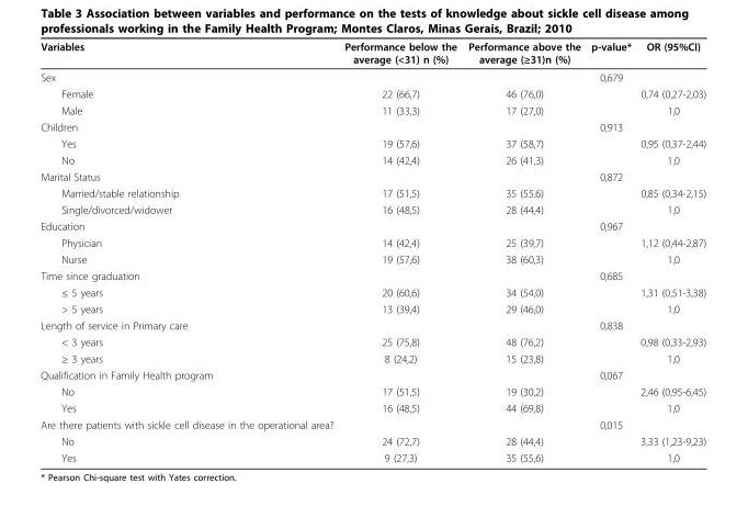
<table><thead><tr><td>Variables</td><td>Performance below the average (&lt;31) n (%)</td><td>Performance above the average (≥31)n (%)</td><td>p-value*</td><td>OR (95%CI)</td></tr></thead><tbody><tr><td>Sex</td><td></td><td></td><td>0,679</td><td></td></tr><tr><td>Female</td><td>22 (66,7)</td><td>46 (76,0)</td><td></td><td>0,74 (0,27-2,03)</td></tr><tr><td>Male</td><td>11 (33,3)</td><td>17 (27,0)</td><td></td><td>1,0</td></tr><tr><td>Children</td><td></td><td></td><td>0,913</td><td></td></tr><tr><td>Yes</td><td>19 (57,6)</td><td>37 (58,7)</td><td></td><td>0,95 (0,37-2,44)</td></tr><tr><td>No</td><td>14 (42,4)</td><td>26 (41,3)</td><td></td><td>1,0</td></tr><tr><td>Marital Status</td><td></td><td></td><td>0,872</td><td></td></tr><tr><td>Married/stable relationship</td><td>17 (51,5)</td><td>35 (55.6)</td><td></td><td>0,85 (0,34-2,15)</td></tr><tr><td>Single/divorced/widower</td><td>16 (48,5)</td><td>28 (44,4)</td><td></td><td>1,0</td></tr><tr><td>Education</td><td></td><td></td><td>0,967</td><td></td></tr><tr><td>Physician</td><td>14 (42,4)</td><td>25 (39,7)</td><td></td><td>1,12 (0,44-2,87)</td></tr><tr><td>Nurse</td><td>19 (57,6)</td><td>38 (60,3)</td><td></td><td>1,0</td></tr><tr><td>Time since graduation</td><td></td><td></td><td>0,685</td><td></td></tr><tr><td>≤ 5 years</td><td>20 (60,6)</td><td>34 (54,0)</td><td></td><td>1,31 (0,51-3,38)</td></tr><tr><td>&gt; 5 years</td><td>13 (39,4)</td><td>29 (46,0)</td><td></td><td>1,0</td></tr><tr><td>Length of service in Primary care</td><td></td><td></td><td>0,838</td><td></td></tr><tr><td>&lt; 3 years</td><td>25 (75,8)</td><td>48 (76,2)</td><td></td><td>0,98 (0,33-2,93)</td></tr><tr><td>≥ 3 years</td><td>8 (24,2)</td><td>15 (23,8)</td><td></td><td>1,0</td></tr><tr><td>Qualification in Family Health program</td><td></td><td></td><td>0,067</td><td></td></tr><tr><td>No</td><td>17 (51,5)</td><td>19 (30,2)</td><td></td><td>2,46 (0,95-6,45)</td></tr><tr><td>Yes</td><td>16 (48,5)</td><td>44 (69,8)</td><td></td><td>1,0</td></tr><tr><td>Are there patients with sickle cell disease in the operational area?</td><td></td><td></td><td>0,015</td><td></td></tr><tr><td>No</td><td>24 (72,7)</td><td>28 (44,4)</td><td></td><td>3,33 (1,23-9,23)</td></tr><tr><td>Yes</td><td>9 (27,3)</td><td>35 (55,6)</td><td></td><td>1,0</td></tr></tbody></table>